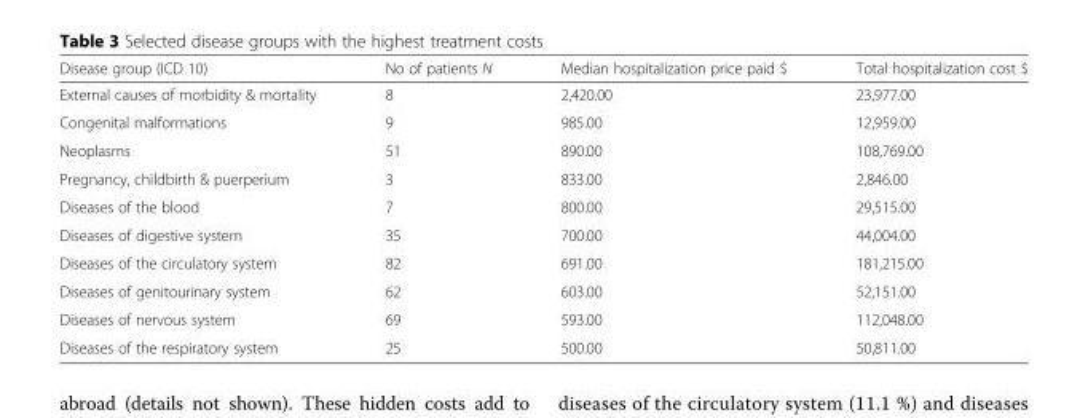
<table><thead><tr><td>Disease group (ICD 10)</td><td>No of patients N</td><td>Median hospitalization price paid $</td><td>Total hospitalization cost $</td></tr></thead><tbody><tr><td>External causes of morbidity &amp; mortality</td><td>8</td><td>2,420.00</td><td>23,977.00</td></tr><tr><td>Congenital malformations</td><td>9</td><td>985.00</td><td>12,959.00</td></tr><tr><td>Neoplasms</td><td>51</td><td>890.00</td><td>108,769.00</td></tr><tr><td>Pregnancy, childbirth &amp; puerperium</td><td>3</td><td>833.00</td><td>2,846.00</td></tr><tr><td>Diseases of the blood</td><td>7</td><td>800.00</td><td>29,515.00</td></tr><tr><td>Diseases of digestive system</td><td>35</td><td>700.00</td><td>44,004.00</td></tr><tr><td>Diseases of the circulatory system</td><td>82</td><td>691.00</td><td>181,215.00</td></tr><tr><td>Diseases of genitourinary system</td><td>62</td><td>603.00</td><td>52,151.00</td></tr><tr><td>Diseases of nervous system</td><td>69</td><td>593.00</td><td>112,048.00</td></tr><tr><td>Diseases of the respiratory system</td><td>25</td><td>500.00</td><td>50,811.00</td></tr></tbody></table>